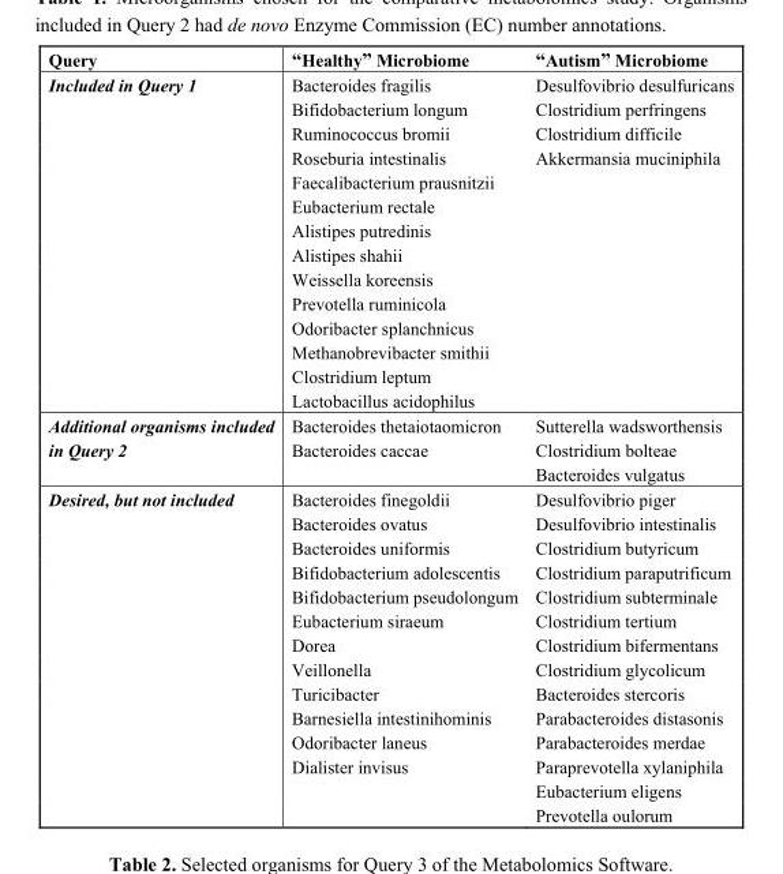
<table><thead><tr><td>Query</td><td>“Healthy” Microbiome</td><td>“Autism” Microbiome</td></tr></thead><tbody><tr><td rowspan="14">Included in Query 1</td><td>Bacteroides fragilis</td><td>Desulfovibrio desulfuricans</td></tr><tr><td>Bifidobacterium longum</td><td>Clostridium perfringens</td></tr><tr><td>Ruminococcus bromii</td><td>Clostridium difficile</td></tr><tr><td>Roseburia intestinalis</td><td>Akkermansia muciniphila</td></tr><tr><td>Faecalibacterium prausnitzii</td><td></td></tr><tr><td>Eubacterium rectale</td><td></td></tr><tr><td>Alistipes putredinis</td><td></td></tr><tr><td>Alistipes shahii</td><td></td></tr><tr><td>Weissella koreensis</td><td></td></tr><tr><td>Prevotella ruminicola</td><td></td></tr><tr><td>Odoribacter splanchnicus</td><td></td></tr><tr><td>Methanobrevibacter smithii</td><td></td></tr><tr><td>Clostridium leptum</td><td></td></tr><tr><td>Lactobacillus acidophilus</td><td></td></tr><tr><td rowspan="3">Additional organisms included in Query 2</td><td>Bacteroides thetaiotaomicron</td><td>Sutterella wadsworthensis</td></tr><tr><td>Bacteroides caccae</td><td>Clostridium bolteae</td></tr><tr><td></td><td>Bacteroides vulgatus</td></tr><tr><td rowspan="14">Desired, but not included</td><td>Bacteroides finegoldii</td><td>Desulfovibrio piger</td></tr><tr><td>Bacteroides ovatus</td><td>Desulfovibrio intestinalis</td></tr><tr><td>Bacteroides uniformis</td><td>Clostridium butyricum</td></tr><tr><td>Bifidobacterium adolescentis</td><td>Clostridium paraputrificum</td></tr><tr><td>Bifidobacterium pseudolongum</td><td>Clostridium subterminale</td></tr><tr><td>Eubacterium siraeum</td><td>Clostridium tertium</td></tr><tr><td>Dorea</td><td>Clostridium bifermentans</td></tr><tr><td>Veillonella</td><td>Clostridium glycolicum</td></tr><tr><td>Turicibacter</td><td>Bacteroides stercoris</td></tr><tr><td>Barnesiella intestinihominis</td><td>Parabacteroides distasonis</td></tr><tr><td>Odoribacter laneus</td><td>Parabacteroides merdae</td></tr><tr><td>Dialister invisus</td><td>Paraprevotella xylaniphila</td></tr><tr><td></td><td>Eubacterium eligens</td></tr><tr><td></td><td>Prevotella oulorum</td></tr></tbody></table>